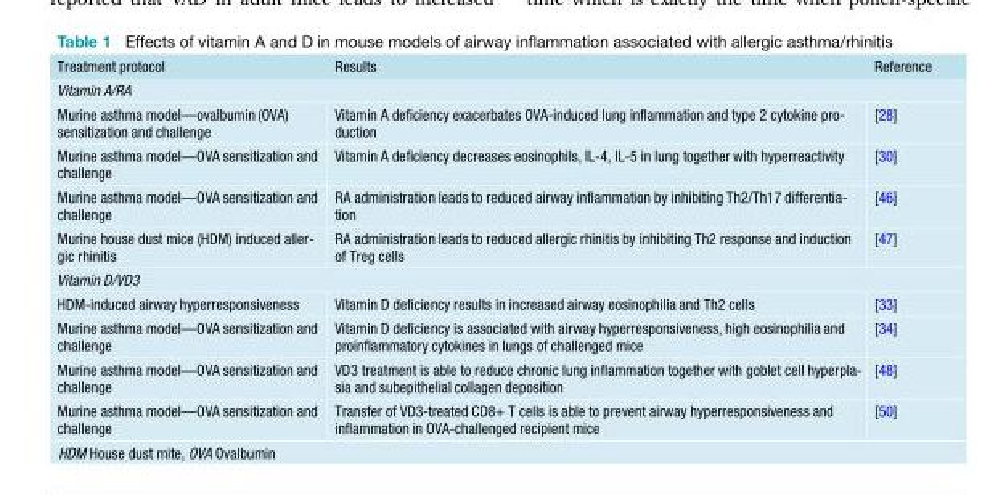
<table><thead><tr><td>Treatment protocol</td><td>Results</td><td>Reference</td></tr></thead><tbody><tr><td colspan="3">Vitamin A/RA</td></tr><tr><td>Murine asthma model—ovalbumin (OVA) sensitization and challenge</td><td>Vitamin A deficiency exacerbates OVA-induced lung inflammation and type 2 cytokine pro- duction</td><td>[28]</td></tr><tr><td>Murine asthma model—OVA sensitization and challenge</td><td>Vitamin A deficiency decreases eosinophils, IL-4, IL-5 in lung together with hyperreactivity</td><td>[30]</td></tr><tr><td>Murine asthma model—OVA sensitization and challenge</td><td>RA administration leads to reduced airway inflammation by inhibiting Th2/Th17 differentia- tion</td><td>[46]</td></tr><tr><td>Murine house dust mice (HDM) induced aller- gic rhinitis</td><td>RA administration leads to reduced allergic rhinitis by inhibiting Th2 response and induction of Treg cells</td><td>[47]</td></tr><tr><td colspan="3">Vitamin D/VD3</td></tr><tr><td>HDM-induced airway hyperresponsiveness</td><td>Vitamin D deficiency results in increased airway eosinophilia and Th2 cells</td><td>[33]</td></tr><tr><td>Murine asthma model—OVA sensitization and challenge</td><td>Vitamin D deficiency is associated with airway hyperresponsiveness, high eosinophilia and proinflammatory cytokines in lungs of challenged mice</td><td>[34]</td></tr><tr><td>Murine asthma model—OVA sensitization and challenge</td><td>VD3 treatment is able to reduce chronic lung inflammation together with goblet cell hyperpla- sia and subepithelial collagen deposition</td><td>[48]</td></tr><tr><td>Murine asthma model—OVA sensitization and challenge</td><td>Transfer of VD3-treated CD8+ T cells is able to prevent airway hyperresponsiveness and inflammation in OVA-challenged recipient mice</td><td>[50]</td></tr></tbody></table>